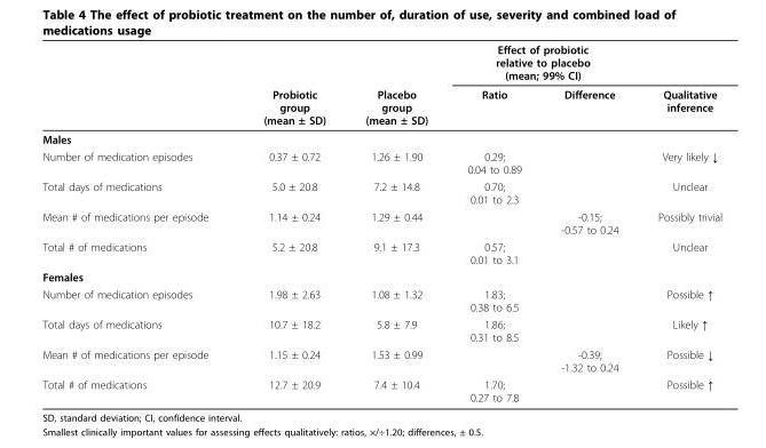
<table><thead><tr><td rowspan="2"></td><td rowspan="2">Probiotic group (mean ± SD)</td><td rowspan="2">Placebo group (mean ± SD)</td><td colspan="2">Effect of probiotic relative to placebo (mean; 99% CI)</td><td rowspan="2">Qualitative inference</td></tr><tr><td>Ratio</td><td>Difference</td></tr></thead><tbody><tr><td colspan="6">Males</td></tr><tr><td>Number of medication episodes</td><td>0.37 ± 0.72</td><td>1.26 ± 1.90</td><td>0.29; 0.04 to 0.89</td><td></td><td>Very likely ↓</td></tr><tr><td>Total days of medications</td><td>5.0 ± 20.8</td><td>7.2 ± 14.8</td><td>0.70; 0.01 to 2.3</td><td></td><td>Unclear</td></tr><tr><td>Mean # of medications per episode</td><td>1.14 ± 0.24</td><td>1.29 ± 0.44</td><td></td><td>-0.15; -0.57 to 0.24</td><td>Possibly trivial</td></tr><tr><td>Total # of medications</td><td>5.2 ± 20.8</td><td>9.1 ± 17.3</td><td>0.57; 0.01 to 3.1</td><td></td><td>Unclear</td></tr><tr><td colspan="6">Females</td></tr><tr><td>Number of medication episodes</td><td>1.98 ± 2.63</td><td>1.08 ± 1.32</td><td>1.83; 0.38 to 6.5</td><td></td><td>Possible ↑</td></tr><tr><td>Total days of medications</td><td>10.7 ± 18.2</td><td>5.8 ± 7.9</td><td>1.86; 0.31 to 8.5</td><td></td><td>Likely ↑</td></tr><tr><td>Mean # of medications per episode</td><td>1.15 ± 0.24</td><td>1.53 ± 0.99</td><td></td><td>-0.39; -1.32 to 0.24</td><td>Possible ↓</td></tr><tr><td>Total # of medications</td><td>12.7 ± 20.9</td><td>7.4 ± 10.4</td><td>1.70; 0.27 to 7.8</td><td></td><td>Possible ↑</td></tr></tbody></table>